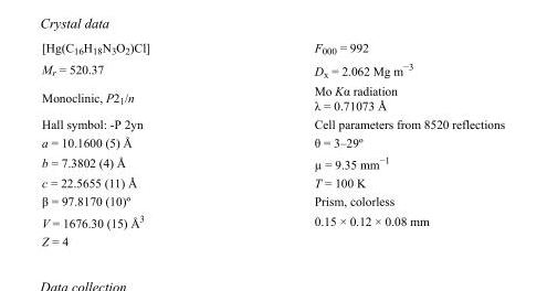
<table><tbody><tr><td>[Hg(C<sub>16</sub>H<sub>18</sub>N<sub>3</sub>O<sub>2</sub>)Cl]</td><td>F000 = 992</td></tr><tr><td>M<sub>r</sub> = 520.37</td><td>D<sub>x</sub> = 2.062 Mg m<sup>−3</sup></td></tr><tr><td>Monoclinic, P2<sub>1</sub>/n</td><td>Mo Kα radiation λ = 0.71073 Å</td></tr><tr><td>Hall symbol: -P 2yn</td><td>Cell parameters from 8520 reflections</td></tr><tr><td>a = 10.1600 (5) Å</td><td>θ = 3–29º</td></tr><tr><td>b = 7.3802 (4) Å</td><td>µ = 9.35 mm<sup>−1</sup></td></tr><tr><td>c = 22.5655 (11) Å</td><td>T = 100 K</td></tr><tr><td>β = 97.8170 (10)º</td><td>Prism, colorless</td></tr><tr><td>V = 1676.30 (15) Å<sup>3</sup></td><td>0.15 × 0.12 × 0.08 mm</td></tr><tr><td>Z = 4</td><td></td></tr></tbody></table>